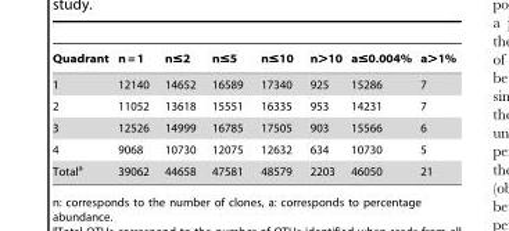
<table><thead><tr><td>Quadrant</td><td>n = 1</td><td>n≤2</td><td>n≤5</td><td>n≤10</td><td>n&gt;10</td><td>a≤0.004%</td><td>a&gt;1%</td></tr></thead><tbody><tr><td>1</td><td>12140</td><td>14652</td><td>16589</td><td>17340</td><td>925</td><td>15286</td><td>7</td></tr><tr><td>2</td><td>11052</td><td>13618</td><td>15551</td><td>16335</td><td>953</td><td>14231</td><td>7</td></tr><tr><td>3</td><td>12526</td><td>14999</td><td>16785</td><td>17505</td><td>903</td><td>15566</td><td>6</td></tr><tr><td>4</td><td>9068</td><td>10730</td><td>12075</td><td>12632</td><td>634</td><td>10730</td><td>5</td></tr><tr><td>Total<sup>a</sup></td><td>39062</td><td>44658</td><td>47581</td><td>48579</td><td>2203</td><td>46050</td><td>21</td></tr></tbody></table>